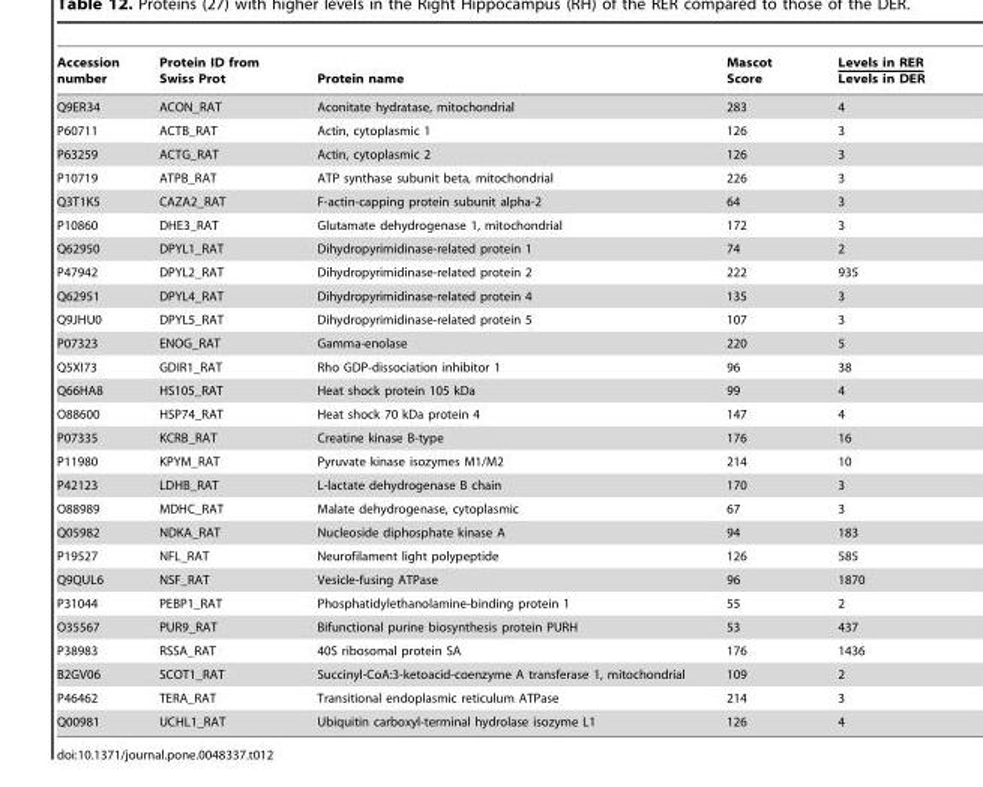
<table><thead><tr><td>Accession number</td><td>Protein ID from Swiss Prot</td><td>Protein name</td><td>Mascot Score</td><td>Levels in RER Levels in DER</td></tr></thead><tbody><tr><td>Q9ER34</td><td>ACON_RAT</td><td>Aconitate hydratase, mitochondrial</td><td>283</td><td>4</td></tr><tr><td>P60711</td><td>ACTB_RAT</td><td>Actin, cytoplasmic 1</td><td>126</td><td>3</td></tr><tr><td>P63259</td><td>ACTG_RAT</td><td>Actin, cytoplasmic 2</td><td>126</td><td>3</td></tr><tr><td>P10719</td><td>ATPB_RAT</td><td>ATP synthase subunit beta, mitochondrial</td><td>226</td><td>3</td></tr><tr><td>Q3T1K5</td><td>CAZA2_RAT</td><td>F-actin-capping protein subunit alpha-2</td><td>64</td><td>3</td></tr><tr><td>P10860</td><td>DHE3_RAT</td><td>Glutamate dehydrogenase 1, mitochondrial</td><td>172</td><td>3</td></tr><tr><td>Q62950</td><td>DPYL1_RAT</td><td>Dihydropyrimidinase-related protein 1</td><td>74</td><td>2</td></tr><tr><td>P47942</td><td>DPYL2_RAT</td><td>Dihydropyrimidinase-related protein 2</td><td>222</td><td>935</td></tr><tr><td>Q62951</td><td>DPYL4_RAT</td><td>Dihydropyrimidinase-related protein 4</td><td>135</td><td>3</td></tr><tr><td>Q9JHU0</td><td>DPYL5_RAT</td><td>Dihydropyrimidinase-related protein 5</td><td>107</td><td>3</td></tr><tr><td>P07323</td><td>ENOG_RAT</td><td>Gamma-enolase</td><td>220</td><td>5</td></tr><tr><td>Q5XI73</td><td>GDIR1_RAT</td><td>Rho GDP-dissociation inhibitor 1</td><td>96</td><td>38</td></tr><tr><td>Q66HA8</td><td>HS105_RAT</td><td>Heat shock protein 105 kDa</td><td>99</td><td>4</td></tr><tr><td>O88600</td><td>HSP74_RAT</td><td>Heat shock 70 kDa protein 4</td><td>147</td><td>4</td></tr><tr><td>P07335</td><td>KCRB_RAT</td><td>Creatine kinase B-type</td><td>176</td><td>16</td></tr><tr><td>P11980</td><td>KPYM_RAT</td><td>Pyruvate kinase isozymes M1/M2</td><td>214</td><td>10</td></tr><tr><td>P42123</td><td>LDHB_RAT</td><td>L-lactate dehydrogenase B chain</td><td>170</td><td>3</td></tr><tr><td>O88989</td><td>MDHC_RAT</td><td>Malate dehydrogenase, cytoplasmic</td><td>67</td><td>3</td></tr><tr><td>Q05982</td><td>NDKA_RAT</td><td>Nucleoside diphosphate kinase A</td><td>94</td><td>183</td></tr><tr><td>P19527</td><td>NFL_RAT</td><td>Neurofilament light polypeptide</td><td>126</td><td>585</td></tr><tr><td>Q9QUL6</td><td>NSF_RAT</td><td>Vesicle-fusing ATPase</td><td>96</td><td>1870</td></tr><tr><td>P31044</td><td>PEBP1_RAT</td><td>Phosphatidylethanolamine-binding protein 1</td><td>55</td><td>2</td></tr><tr><td>O35567</td><td>PUR9_RAT</td><td>Bifunctional purine biosynthesis protein PURH</td><td>53</td><td>437</td></tr><tr><td>P38983</td><td>RSSA_RAT</td><td>40S ribosomal protein SA</td><td>176</td><td>1436</td></tr><tr><td>B2GV06</td><td>SCOT1_RAT</td><td>Succinyl-CoA:3-ketoacid-coenzyme A transferase 1, mitochondrial</td><td>109</td><td>2</td></tr><tr><td>P46462</td><td>TERA_RAT</td><td>Transitional endoplasmic reticulum ATPase</td><td>214</td><td>3</td></tr><tr><td>Q00981</td><td>UCHL1_RAT</td><td>Ubiquitin carboxyl-terminal hydrolase isozyme L1</td><td>126</td><td>4</td></tr></tbody></table>